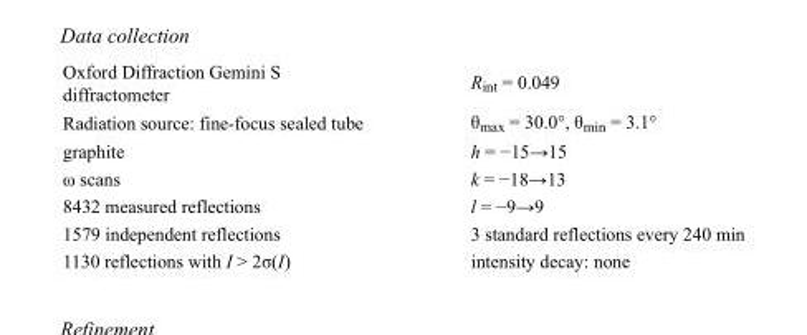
<table><tbody><tr><td>Oxford Diffraction Gemini S diffractometer</td><td>R<sub>int</sub> = 0.049</td></tr><tr><td>Radiation source: fine-focus sealed tube</td><td>θ<sub>max</sub> = 30.0°, θ<sub>min</sub> = 3.1°</td></tr><tr><td>graphite</td><td>h = −15→15</td></tr><tr><td>ω scans</td><td>k = −18→13</td></tr><tr><td>8432 measured reflections</td><td>l = −9→9</td></tr><tr><td>1579 independent reflections</td><td>3 standard reflections every 240 min</td></tr><tr><td>1130 reflections with I &gt; 2σ(I)</td><td>intensity decay: none</td></tr></tbody></table>